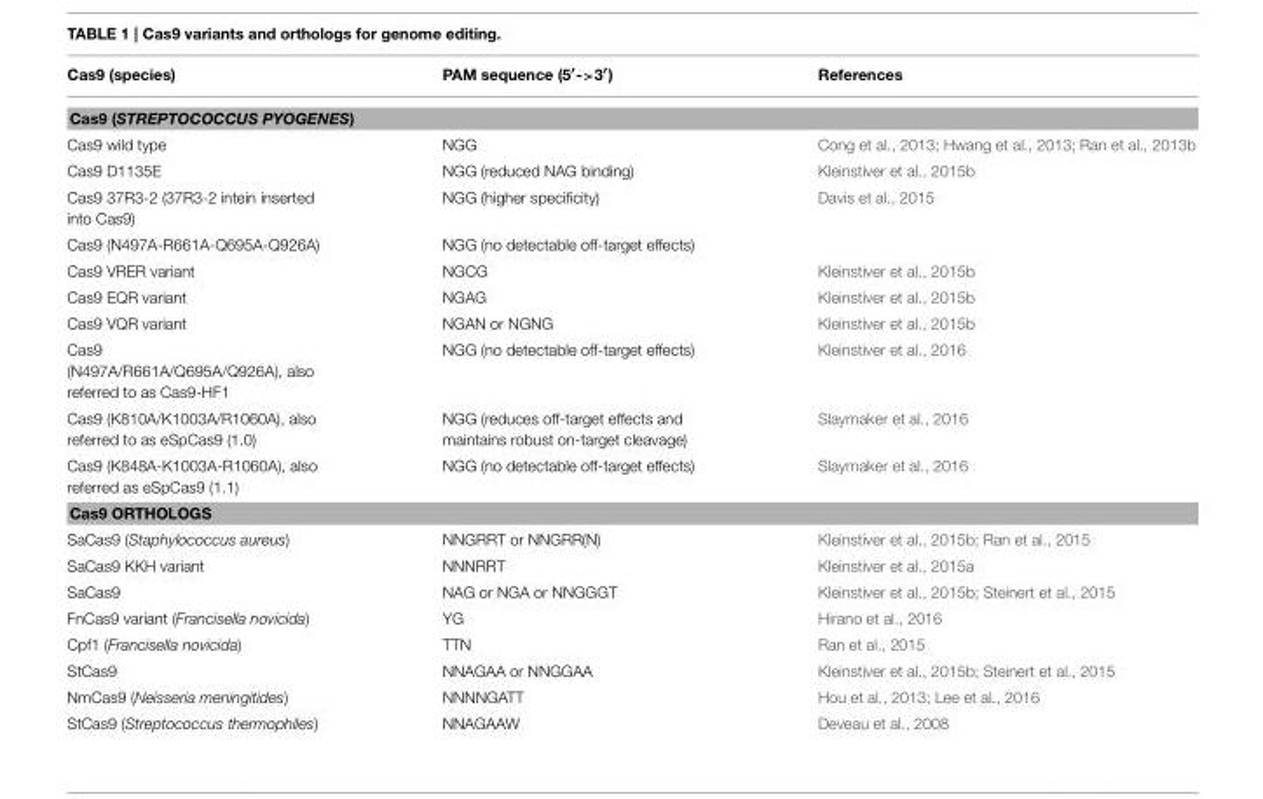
<table><thead><tr><td>Cas9 (species)</td><td>PAM sequence (5′-&gt;3′)</td><td>References</td></tr></thead><tbody><tr><td colspan="3">Cas9 (STREPTOCOCCUS PYOGENES)</td></tr><tr><td>Cas9 wild type</td><td>NGG</td><td>Cong et al., 2013; Hwang et al., 2013; Ran et al., 2013b</td></tr><tr><td>Cas9 D1135E</td><td>NGG (reduced NAG binding)</td><td>Kleinstiver et al., 2015b</td></tr><tr><td>Cas9 37R3-2 (37R3-2 intein inserted into Cas9)</td><td>NGG (higher specificity)</td><td>Davis et al., 2015</td></tr><tr><td>Cas9 (N497A-R661A-Q695A-Q926A)</td><td>NGG (no detectable off-target effects)</td><td></td></tr><tr><td>Cas9 VRER variant</td><td>NGCG</td><td>Kleinstiver et al., 2015b</td></tr><tr><td>Cas9 EQR variant</td><td>NGAG</td><td>Kleinstiver et al., 2015b</td></tr><tr><td>Cas9 VQR variant</td><td>NGAN or NGNG</td><td>Kleinstiver et al., 2015b</td></tr><tr><td>Cas9 (N497A/R661A/Q695A/Q926A), also referred to as Cas9-HF1</td><td>NGG (no detectable off-target effects)</td><td>Kleinstiver et al., 2016</td></tr><tr><td>Cas9 (K810A/K1003A/R1060A), also referred to as eSpCas9 (1.0)</td><td>NGG (reduces off-target effects and maintains robust on-target cleavage)</td><td>Slaymaker et al., 2016</td></tr><tr><td>Cas9 (K848A-K1003A-R1060A), also referred as eSpCas9 (1.1)</td><td>NGG (no detectable off-target effects)</td><td>Slaymaker et al., 2016</td></tr><tr><td colspan="3">Cas9 ORTHOLOGS</td></tr><tr><td>SaCas9 (Staphylococcus aureus)</td><td>NNGRRT or NNGRR(N)</td><td>Kleinstiver et al., 2015b; Ran et al., 2015</td></tr><tr><td>SaCas9 KKH variant</td><td>NNNRRT</td><td>Kleinstiver et al., 2015a</td></tr><tr><td>SaCas9</td><td>NAG or NGA or NNGGGT</td><td>Kleinstiver et al., 2015b; Steinert et al., 2015</td></tr><tr><td>FnCas9 variant (Francisella novicida)</td><td>YG</td><td>Hirano et al., 2016</td></tr><tr><td>Cpf1 (Francisella novicida)</td><td>TTN</td><td>Ran et al., 2015</td></tr><tr><td>StCas9</td><td>NNAGAA or NNGGAA</td><td>Kleinstiver et al., 2015b; Steinert et al., 2015</td></tr><tr><td>NmCas9 (Neisseria meningitides)</td><td>NNNNGATT</td><td>Hou et al., 2013; Lee et al., 2016</td></tr><tr><td>StCas9 (Streptococcus thermophiles)</td><td>NNAGAAW</td><td>Deveau et al., 2008</td></tr></tbody></table>